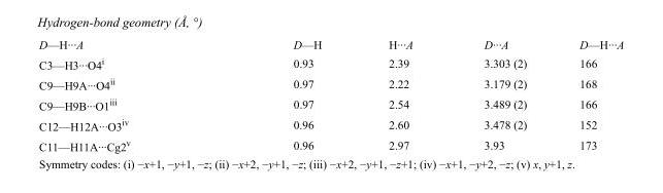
<table><tbody><tr><td>D—H···A</td><td>D—H</td><td>H···A</td><td>D···A</td><td>D—H···A</td></tr><tr><td>C3—H3···O4<sup>i</sup></td><td>0.93</td><td>2.39</td><td>3.303 (2)</td><td>166</td></tr><tr><td>C9—H9A···O4<sup>ii</sup></td><td>0.97</td><td>2.22</td><td>3.179 (2)</td><td>168</td></tr><tr><td>C9—H9B···O1<sup>iii</sup></td><td>0.97</td><td>2.54</td><td>3.489 (2)</td><td>166</td></tr><tr><td>C12—H12A···O3<sup>iv</sup></td><td>0.96</td><td>2.60</td><td>3.478 (2)</td><td>152</td></tr><tr><td>C11—H11A···Cg2<sup>v</sup></td><td>0.96</td><td>2.97</td><td>3.93</td><td>173</td></tr></tbody></table>